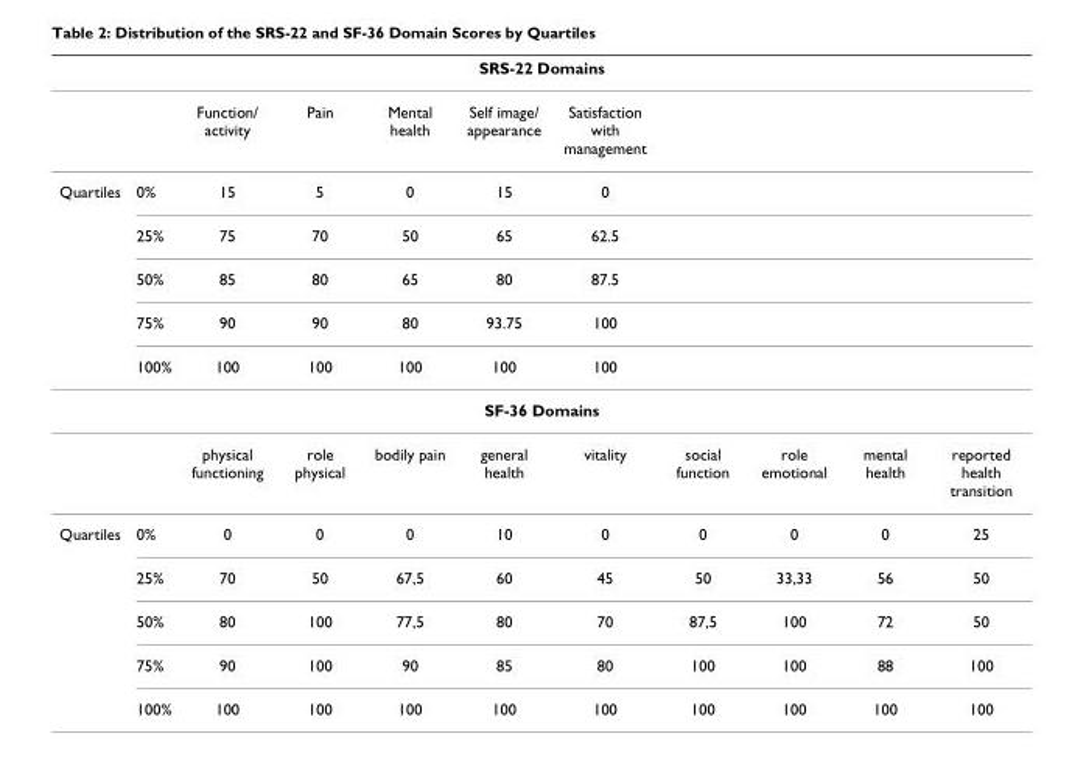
<table><thead><tr><td colspan="11">SRS-22 Domains</td></tr><tr><td></td><td></td><td>Function/ activity</td><td>Pain</td><td>Mental health</td><td>Self image/ appearance</td><td>Satisfaction with management</td><td></td><td></td><td></td><td></td></tr></thead><tbody><tr><td rowspan="5">Quartiles</td><td>0%</td><td>15</td><td>5</td><td>0</td><td>15</td><td>0</td><td></td><td></td><td></td><td></td></tr><tr><td>25%</td><td>75</td><td>70</td><td>50</td><td>65</td><td>62.5</td><td></td><td></td><td></td><td></td></tr><tr><td>50%</td><td>85</td><td>80</td><td>65</td><td>80</td><td>87.5</td><td></td><td></td><td></td><td></td></tr><tr><td>75%</td><td>90</td><td>90</td><td>80</td><td>93.75</td><td>100</td><td></td><td></td><td></td><td></td></tr><tr><td>100%</td><td>100</td><td>100</td><td>100</td><td>100</td><td>100</td><td></td><td></td><td></td><td></td></tr><tr><td colspan="11">SF-36 Domains</td></tr><tr><td></td><td></td><td>physical functioning</td><td>role physical</td><td>bodily pain</td><td>general health</td><td>vitality</td><td>social function</td><td>role emotional</td><td>mental health</td><td>reported health transition</td></tr><tr><td rowspan="5">Quartiles</td><td>0%</td><td>0</td><td>0</td><td>0</td><td>10</td><td>0</td><td>0</td><td>0</td><td>0</td><td>25</td></tr><tr><td>25%</td><td>70</td><td>50</td><td>67,5</td><td>60</td><td>45</td><td>50</td><td>33,33</td><td>56</td><td>50</td></tr><tr><td>50%</td><td>80</td><td>100</td><td>77,5</td><td>80</td><td>70</td><td>87,5</td><td>100</td><td>72</td><td>50</td></tr><tr><td>75%</td><td>90</td><td>100</td><td>90</td><td>85</td><td>80</td><td>100</td><td>100</td><td>88</td><td>100</td></tr><tr><td>100%</td><td>100</td><td>100</td><td>100</td><td>100</td><td>100</td><td>100</td><td>100</td><td>100</td><td>100</td></tr></tbody></table>